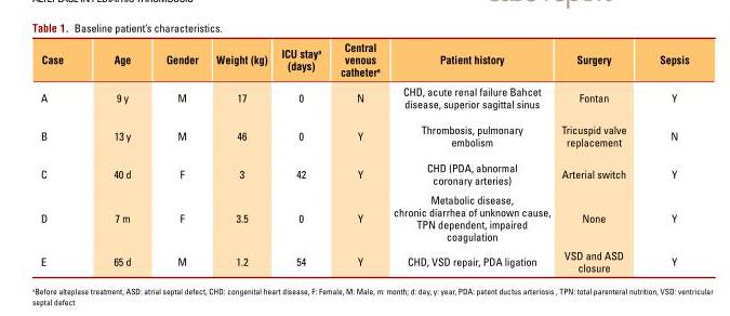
<table><thead><tr><td>Case</td><td>Age</td><td>Gender</td><td>Weight (kg)</td><td>ICU stay<sup>a</sup> (days)</td><td>Central venous catheter<sup>a</sup></td><td>Patient history</td><td>Surgery</td><td>Sepsis</td></tr></thead><tbody><tr><td>A</td><td>9 y</td><td>M</td><td>17</td><td>0</td><td>N</td><td>CHD, acute renal failure Bahcet disease, superior sagittal sinus</td><td>Fontan</td><td>Y</td></tr><tr><td>B</td><td>13 y</td><td>M</td><td>46</td><td>0</td><td>Y</td><td>Thrombosis, pulmonary embolism</td><td>Tricuspid valve replacement</td><td>N</td></tr><tr><td>C</td><td>40 d</td><td>F</td><td>3</td><td>42</td><td>Y</td><td>CHD (PDA, abnormal coronary arteries)</td><td>Arterial switch</td><td>Y</td></tr><tr><td>D</td><td>7 m</td><td>F</td><td>3.5</td><td>0</td><td>Y</td><td>Metabolic disease, chronic diarrhea of unknown cause, TPN dependent, impaired coagulation</td><td>None</td><td>Y</td></tr><tr><td>E</td><td>65 d</td><td>M</td><td>1.2</td><td>54</td><td>Y</td><td>CHD, VSD repair, PDA ligation</td><td>VSD and ASD closure</td><td>Y</td></tr></tbody></table>